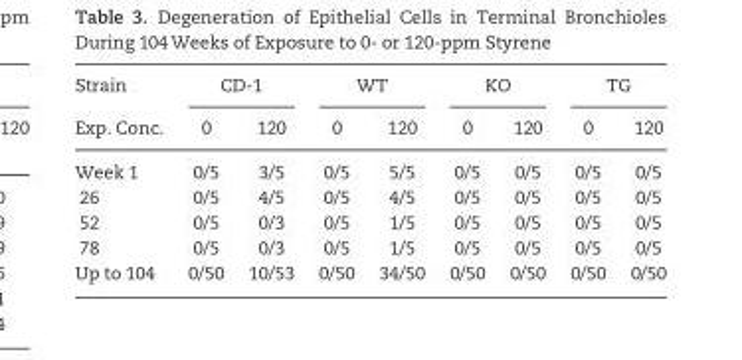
<table><thead><tr><td rowspan="2">Strain Exp. Conc.</td><td colspan="2">CD-1</td><td colspan="2">WT</td><td colspan="2">KO</td><td colspan="2">TG</td></tr><tr><td>0</td><td>120</td><td>0</td><td>120</td><td>0</td><td>120</td><td>0</td><td>120</td></tr></thead><tbody><tr><td>Week 1</td><td>0/5</td><td>3/5</td><td>0/5</td><td>5/5</td><td>0/5</td><td>0/5</td><td>0/5</td><td>0/5</td></tr><tr><td>26</td><td>0/5</td><td>4/5</td><td>0/5</td><td>4/5</td><td>0/5</td><td>0/5</td><td>0/5</td><td>0/5</td></tr><tr><td>52</td><td>0/5</td><td>0/3</td><td>0/5</td><td>1/5</td><td>0/5</td><td>0/5</td><td>0/5</td><td>0/5</td></tr><tr><td>78</td><td>0/5</td><td>0/3</td><td>0/5</td><td>1/5</td><td>0/5</td><td>0/5</td><td>0/5</td><td>0/5</td></tr><tr><td>Up to 104</td><td>0/50</td><td>10/53</td><td>0/50</td><td>34/50</td><td>0/50</td><td>0/50</td><td>0/50</td><td>0/50</td></tr></tbody></table>